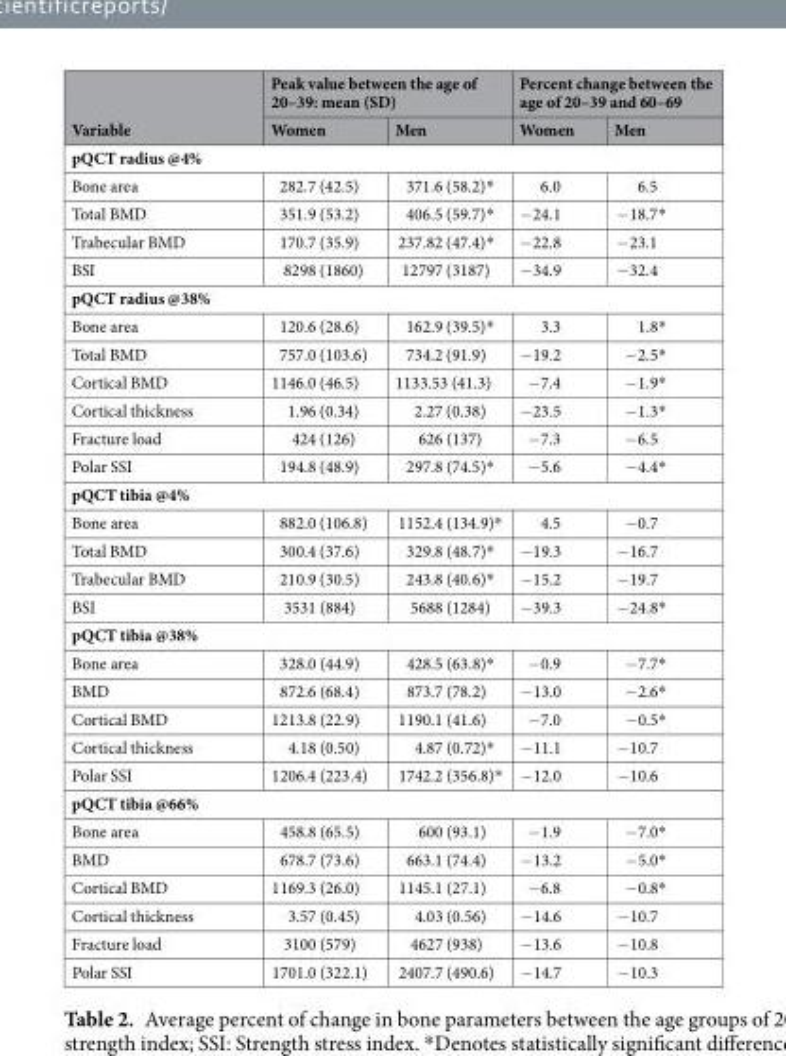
<table><thead><tr><td rowspan="2">Variable</td><td colspan="2">Peak value between the age of 20–39: mean (SD)</td><td colspan="2">Percent change between the age of 20–39 and 60–69</td></tr><tr><td>Women</td><td>Men</td><td>Women</td><td>Men</td></tr></thead><tbody><tr><td colspan="5">pQCT radius @4%</td></tr><tr><td>Bone area</td><td>282.7 (42.5)</td><td>371.6 (58.2)*</td><td>6.0</td><td>6.5</td></tr><tr><td>Total BMD</td><td>351.9 (53.2)</td><td>406.5 (59.7)*</td><td>−24.1</td><td>−18.7*</td></tr><tr><td>Trabecular BMD</td><td>170.7 (35.9)</td><td>237.82 (47.4)*</td><td>−22.8</td><td>−23.1</td></tr><tr><td>BSI</td><td>8298 (1860)</td><td>12797 (3187)</td><td>−34.9</td><td>−32.4</td></tr><tr><td colspan="5">pQCT radius @38%</td></tr><tr><td>Bone area</td><td>120.6 (28.6)</td><td>162.9 (39.5)*</td><td>3.3</td><td>1.8*</td></tr><tr><td>Total BMD</td><td>757.0 (103.6)</td><td>734.2 (91.9)</td><td>−19.2</td><td>−2.5*</td></tr><tr><td>Cortical BMD</td><td>1146.0 (46.5)</td><td>1133.53 (41.3)</td><td>−7.4</td><td>−1.9*</td></tr><tr><td>Cortical thickness</td><td>1.96 (0.34)</td><td>2.27 (0.38)</td><td>−23.5</td><td>−1.3*</td></tr><tr><td>Fracture load</td><td>424 (126)</td><td>626 (137)</td><td>−7.3</td><td>−6.5</td></tr><tr><td>Polar SSI</td><td>194.8 (48.9)</td><td>297.8 (74.5)*</td><td>−5.6</td><td>−4.4*</td></tr><tr><td colspan="5">pQCT tibia @4%</td></tr><tr><td>Bone area</td><td>882.0 (106.8)</td><td>1152.4 (134.9)*</td><td>4.5</td><td>−0.7</td></tr><tr><td>Total BMD</td><td>300.4 (37.6)</td><td>329.8 (48.7)*</td><td>−19.3</td><td>−16.7</td></tr><tr><td>Trabecular BMD</td><td>210.9 (30.5)</td><td>243.8 (40.6)*</td><td>−15.2</td><td>−19.7</td></tr><tr><td>BSI</td><td>3531 (884)</td><td>5688 (1284)</td><td>−39.3</td><td>−24.8*</td></tr><tr><td colspan="5">pQCT tibia @38%</td></tr><tr><td>Bone area</td><td>328.0 (44.9)</td><td>428.5 (63.8)*</td><td>−0.9</td><td>−7.7*</td></tr><tr><td>BMD</td><td>872.6 (68.4)</td><td>873.7 (78.2)</td><td>−13.0</td><td>−2.6*</td></tr><tr><td>Cortical BMD</td><td>1213.8 (22.9)</td><td>1190.1 (41.6)</td><td>−7.0</td><td>−0.5*</td></tr><tr><td>Cortical thickness</td><td>4.18 (0.50)</td><td>4.87 (0.72)*</td><td>−11.1</td><td>−10.7</td></tr><tr><td>Polar SSI</td><td>1206.4 (223.4)</td><td>1742.2 (356.8)*</td><td>−12.0</td><td>−10.6</td></tr><tr><td colspan="5">pQCT tibia @66%</td></tr><tr><td>Bone area</td><td>458.8 (65.5)</td><td>600 (93.1)</td><td>−1.9</td><td>−7.0*</td></tr><tr><td>BMD</td><td>678.7 (73.6)</td><td>663.1 (74.4)</td><td>−13.2</td><td>−5.0*</td></tr><tr><td>Cortical BMD</td><td>1169.3 (26.0)</td><td>1145.1 (27.1)</td><td>−6.8</td><td>−0.8*</td></tr><tr><td>Cortical thickness</td><td>3.57 (0.45)</td><td>4.03 (0.56)</td><td>−14.6</td><td>−10.7</td></tr><tr><td>Fracture load</td><td>3100 (579)</td><td>4627 (938)</td><td>−13.6</td><td>−10.8</td></tr><tr><td>Polar SSI</td><td>1701.0 (322.1)</td><td>2407.7 (490.6)</td><td>−14.7</td><td>−10.3</td></tr></tbody></table>